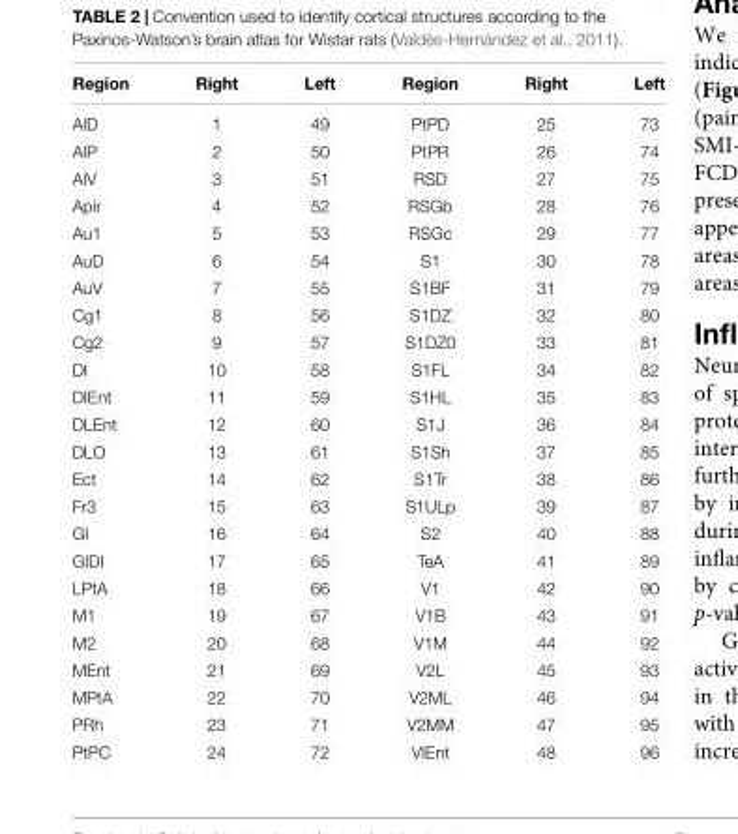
<table><thead><tr><td>Region</td><td>Right</td><td>Left</td><td>Region</td><td>Right</td><td>Left</td></tr></thead><tbody><tr><td>AID</td><td>1</td><td>49</td><td>PtPD</td><td>25</td><td>73</td></tr><tr><td>AIP</td><td>2</td><td>50</td><td>PtPR</td><td>26</td><td>74</td></tr><tr><td>AIV</td><td>3</td><td>51</td><td>RSD</td><td>27</td><td>75</td></tr><tr><td>Apir</td><td>4</td><td>52</td><td>RSGb</td><td>28</td><td>76</td></tr><tr><td>Au1</td><td>5</td><td>53</td><td>RSGc</td><td>29</td><td>77</td></tr><tr><td>AuD</td><td>6</td><td>54</td><td>S1</td><td>30</td><td>78</td></tr><tr><td>AuV</td><td>7</td><td>55</td><td>S1BF</td><td>31</td><td>79</td></tr><tr><td>Cg1</td><td>8</td><td>56</td><td>S1DZ</td><td>32</td><td>80</td></tr><tr><td>Cg2</td><td>9</td><td>57</td><td>S1DZ0</td><td>33</td><td>81</td></tr><tr><td>DI</td><td>10</td><td>58</td><td>S1FL</td><td>34</td><td>82</td></tr><tr><td>DIEnt</td><td>11</td><td>59</td><td>S1HL</td><td>35</td><td>83</td></tr><tr><td>DLEnt</td><td>12</td><td>60</td><td>S1J</td><td>36</td><td>84</td></tr><tr><td>DLO</td><td>13</td><td>61</td><td>S1Sh</td><td>37</td><td>85</td></tr><tr><td>Ect</td><td>14</td><td>62</td><td>S1Tr</td><td>38</td><td>86</td></tr><tr><td>Fr3</td><td>15</td><td>63</td><td>S1ULp</td><td>39</td><td>87</td></tr><tr><td>GI</td><td>16</td><td>64</td><td>S2</td><td>40</td><td>88</td></tr><tr><td>GIDI</td><td>17</td><td>65</td><td>TeA</td><td>41</td><td>89</td></tr><tr><td>LPtA</td><td>18</td><td>66</td><td>V1</td><td>42</td><td>90</td></tr><tr><td>M1</td><td>19</td><td>67</td><td>V1B</td><td>43</td><td>91</td></tr><tr><td>M2</td><td>20</td><td>68</td><td>V1M</td><td>44</td><td>92</td></tr><tr><td>MEnt</td><td>21</td><td>69</td><td>V2L</td><td>45</td><td>93</td></tr><tr><td>MPtA</td><td>22</td><td>70</td><td>V2ML</td><td>46</td><td>94</td></tr><tr><td>PRh</td><td>23</td><td>71</td><td>V2MM</td><td>47</td><td>95</td></tr><tr><td>PtPC</td><td>24</td><td>72</td><td>VIEnt</td><td>48</td><td>96</td></tr></tbody></table>